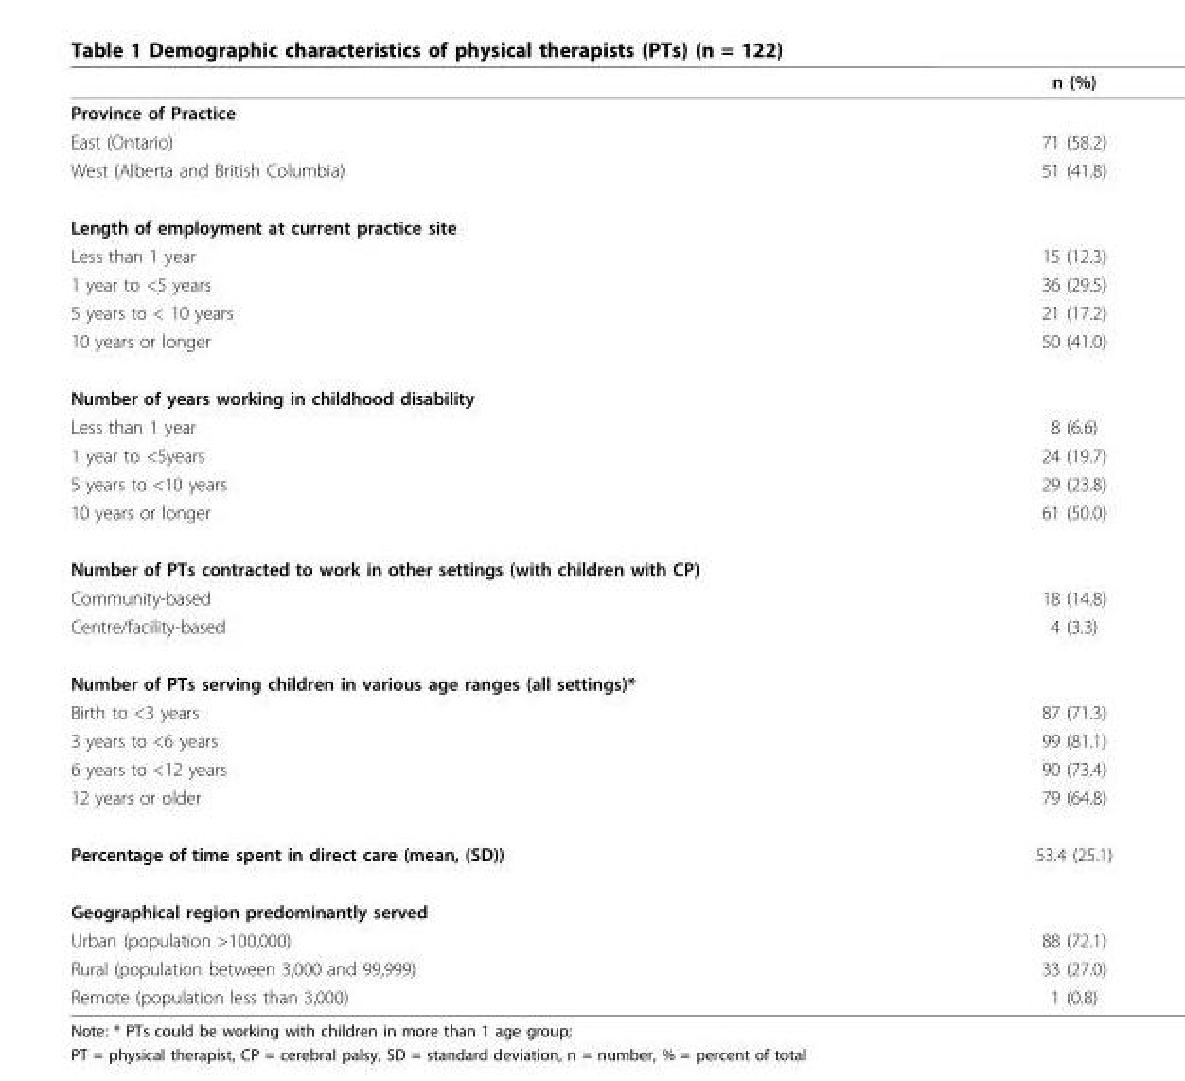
<table><thead><tr><td></td><td>n (%)</td></tr></thead><tbody><tr><td colspan="2">Province of Practice</td></tr><tr><td>East (Ontario)</td><td>71 (58.2)</td></tr><tr><td>West (Alberta and British Columbia)</td><td>51 (41.8)</td></tr><tr><td colspan="2">Length of employment at current practice site</td></tr><tr><td>Less than 1 year</td><td>15 (12.3)</td></tr><tr><td>1 year to &lt;5 years</td><td>36 (29.5)</td></tr><tr><td>5 years to &lt; 10 years</td><td>21 (17.2)</td></tr><tr><td>10 years or longer</td><td>50 (41.0)</td></tr><tr><td colspan="2">Number of years working in childhood disability</td></tr><tr><td>Less than 1 year</td><td>8 (6.6)</td></tr><tr><td>1 year to &lt;5years</td><td>24 (19.7)</td></tr><tr><td>5 years to &lt;10 years</td><td>29 (23.8)</td></tr><tr><td>10 years or longer</td><td>61 (50.0)</td></tr><tr><td colspan="2">Number of PTs contracted to work in other settings (with children with CP)</td></tr><tr><td>Community-based</td><td>18 (14.8)</td></tr><tr><td>Centre/facility-based</td><td>4 (3.3)</td></tr><tr><td colspan="2">Number of PTs serving children in various age ranges (all settings)*</td></tr><tr><td>Birth to &lt;3 years</td><td>87 (71.3)</td></tr><tr><td>3 years to &lt;6 years</td><td>99 (81.1)</td></tr><tr><td>6 years to &lt;12 years</td><td>90 (73.4)</td></tr><tr><td>12 years or older</td><td>79 (64.8)</td></tr><tr><td>Percentage of time spent in direct care (mean, (SD))</td><td>53.4 (25.1)</td></tr><tr><td colspan="2">Geographical region predominantly served</td></tr><tr><td>Urban (population &gt;100,000)</td><td>88 (72.1)</td></tr><tr><td>Rural (population between 3,000 and 99,999)</td><td>33 (27.0)</td></tr><tr><td>Remote (population less than 3,000)</td><td>1 (0.8)</td></tr></tbody></table>